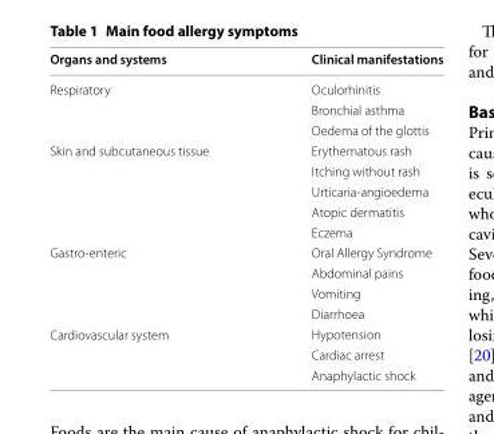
<table><thead><tr><td>Organs and systems</td><td>Clinical manifestations</td></tr></thead><tbody><tr><td rowspan="3">Respiratory</td><td>Oculorhinitis</td></tr><tr><td>Bronchial asthma</td></tr><tr><td>Oedema of the glottis</td></tr><tr><td rowspan="5">Skin and subcutaneous tissue</td><td>Erythematous rash</td></tr><tr><td>Itching without rash</td></tr><tr><td>Urticaria‑angioedema</td></tr><tr><td>Atopic dermatitis</td></tr><tr><td>Eczema</td></tr><tr><td rowspan="4">Gastro‑enteric</td><td>Oral Allergy Syndrome</td></tr><tr><td>Abdominal pains</td></tr><tr><td>Vomiting</td></tr><tr><td>Diarrhoea</td></tr><tr><td rowspan="3">Cardiovascular system</td><td>Hypotension</td></tr><tr><td>Cardiac arrest</td></tr><tr><td>Anaphylactic shock</td></tr></tbody></table>